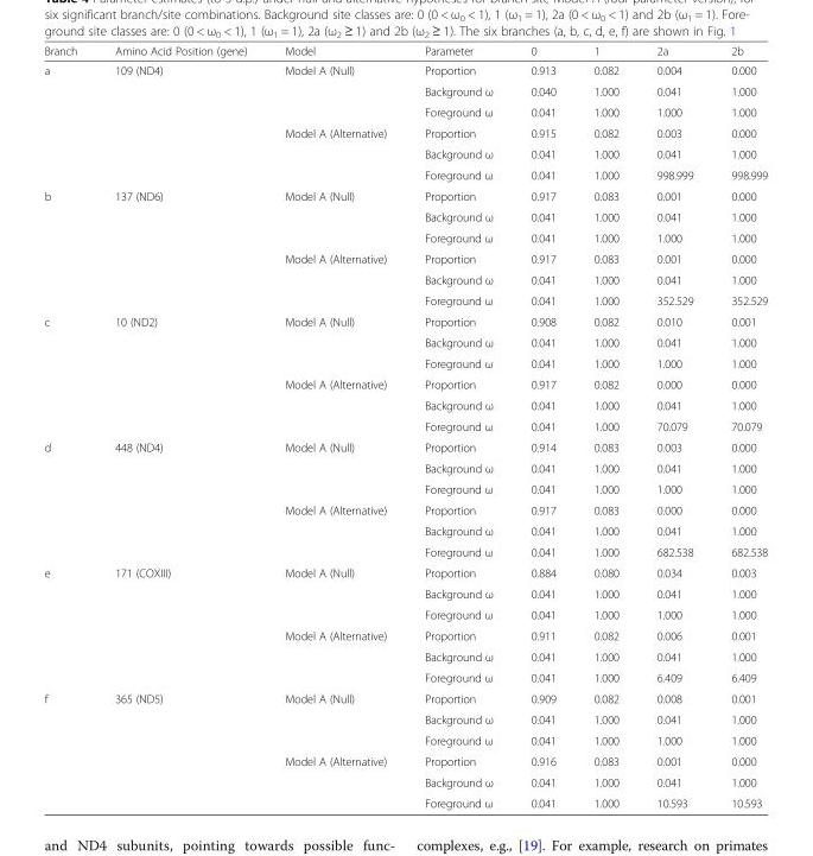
<table><thead><tr><td>Branch</td><td>Amino Acid Position (gene)</td><td>Model</td><td>Parameter</td><td>0</td><td>1</td><td>2a</td><td>2b</td></tr></thead><tbody><tr><td rowspan="6">a</td><td>109 (ND4)</td><td>Model A (Null)</td><td>Proportion</td><td>0.913</td><td>0.082</td><td>0.004</td><td>0.000</td></tr><tr><td></td><td></td><td>Background ω</td><td>0.040</td><td>1.000</td><td>0.041</td><td>1.000</td></tr><tr><td></td><td></td><td>Foreground ω</td><td>0.041</td><td>1.000</td><td>1.000</td><td>1.000</td></tr><tr><td></td><td>Model A (Alternative)</td><td>Proportion</td><td>0.915</td><td>0.082</td><td>0.003</td><td>0.000</td></tr><tr><td></td><td></td><td>Background ω</td><td>0.041</td><td>1.000</td><td>0.041</td><td>1.000</td></tr><tr><td></td><td></td><td>Foreground ω</td><td>0.041</td><td>1.000</td><td>998.999</td><td>998.999</td></tr><tr><td rowspan="6">b</td><td>137 (ND6)</td><td>Model A (Null)</td><td>Proportion</td><td>0.917</td><td>0.083</td><td>0.001</td><td>0.000</td></tr><tr><td></td><td></td><td>Background ω</td><td>0.041</td><td>1.000</td><td>0.041</td><td>1.000</td></tr><tr><td></td><td></td><td>Foreground ω</td><td>0.041</td><td>1.000</td><td>1.000</td><td>1.000</td></tr><tr><td></td><td>Model A (Alternative)</td><td>Proportion</td><td>0.917</td><td>0.083</td><td>0.001</td><td>0.000</td></tr><tr><td></td><td></td><td>Background ω</td><td>0.041</td><td>1.000</td><td>0.041</td><td>1.000</td></tr><tr><td></td><td></td><td>Foreground ω</td><td>0.041</td><td>1.000</td><td>352.529</td><td>352.529</td></tr><tr><td rowspan="6">c</td><td>10 (ND2)</td><td>Model A (Null)</td><td>Proportion</td><td>0.908</td><td>0.082</td><td>0.010</td><td>0.001</td></tr><tr><td></td><td></td><td>Background ω</td><td>0.041</td><td>1.000</td><td>0.041</td><td>1.000</td></tr><tr><td></td><td></td><td>Foreground ω</td><td>0.041</td><td>1.000</td><td>1.000</td><td>1.000</td></tr><tr><td></td><td>Model A (Alternative)</td><td>Proportion</td><td>0.917</td><td>0.082</td><td>0.000</td><td>0.000</td></tr><tr><td></td><td></td><td>Background ω</td><td>0.041</td><td>1.000</td><td>0.041</td><td>1.000</td></tr><tr><td></td><td></td><td>Foreground ω</td><td>0.041</td><td>1.000</td><td>70.079</td><td>70.079</td></tr><tr><td rowspan="6">d</td><td>448 (ND4)</td><td>Model A (Null)</td><td>Proportion</td><td>0.914</td><td>0.083</td><td>0.003</td><td>0.000</td></tr><tr><td></td><td></td><td>Background ω</td><td>0.041</td><td>1.000</td><td>0.041</td><td>1.000</td></tr><tr><td></td><td></td><td>Foreground ω</td><td>0.041</td><td>1.000</td><td>1.000</td><td>1.000</td></tr><tr><td></td><td>Model A (Alternative)</td><td>Proportion</td><td>0.917</td><td>0.083</td><td>0.000</td><td>0.000</td></tr><tr><td></td><td></td><td>Background ω</td><td>0.041</td><td>1.000</td><td>0.041</td><td>1.000</td></tr><tr><td></td><td></td><td>Foreground ω</td><td>0.041</td><td>1.000</td><td>682.538</td><td>682.538</td></tr><tr><td rowspan="6">e</td><td>171 (COXIII)</td><td>Model A (Null)</td><td>Proportion</td><td>0.884</td><td>0.080</td><td>0.034</td><td>0.003</td></tr><tr><td></td><td></td><td>Background ω</td><td>0.041</td><td>1.000</td><td>0.041</td><td>1.000</td></tr><tr><td></td><td></td><td>Foreground ω</td><td>0.041</td><td>1.000</td><td>1.000</td><td>1.000</td></tr><tr><td></td><td>Model A (Alternative)</td><td>Proportion</td><td>0.911</td><td>0.082</td><td>0.006</td><td>0.001</td></tr><tr><td></td><td></td><td>Background ω</td><td>0.041</td><td>1.000</td><td>0.041</td><td>1.000</td></tr><tr><td></td><td></td><td>Foreground ω</td><td>0.041</td><td>1.000</td><td>6.409</td><td>6.409</td></tr><tr><td rowspan="6">f</td><td>365 (ND5)</td><td>Model A (Null)</td><td>Proportion</td><td>0.909</td><td>0.082</td><td>0.008</td><td>0.001</td></tr><tr><td></td><td></td><td>Background ω</td><td>0.041</td><td>1.000</td><td>0.041</td><td>1.000</td></tr><tr><td></td><td></td><td>Foreground ω</td><td>0.041</td><td>1.000</td><td>1.000</td><td>1.000</td></tr><tr><td></td><td>Model A (Alternative)</td><td>Proportion</td><td>0.916</td><td>0.083</td><td>0.001</td><td>0.000</td></tr><tr><td></td><td></td><td>Background ω</td><td>0.041</td><td>1.000</td><td>0.041</td><td>1.000</td></tr><tr><td></td><td></td><td>Foreground ω</td><td>0.041</td><td>1.000</td><td>10.593</td><td>10.593</td></tr></tbody></table>